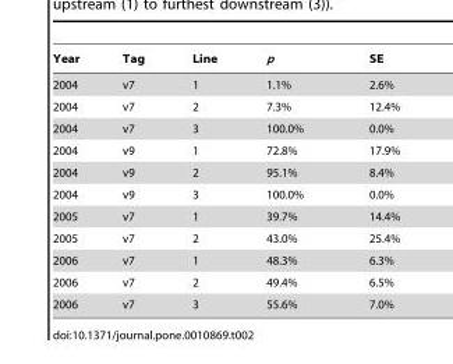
<table><thead><tr><td>Year</td><td>Tag</td><td>Line</td><td>p</td><td>SE</td></tr></thead><tbody><tr><td>2004</td><td>v7</td><td>1</td><td>1.1%</td><td>2.6%</td></tr><tr><td>2004</td><td>v7</td><td>2</td><td>7.3%</td><td>12.4%</td></tr><tr><td>2004</td><td>v7</td><td>3</td><td>100.0%</td><td>0.0%</td></tr><tr><td>2004</td><td>v9</td><td>1</td><td>72.8%</td><td>17.9%</td></tr><tr><td>2004</td><td>v9</td><td>2</td><td>95.1%</td><td>8.4%</td></tr><tr><td>2004</td><td>v9</td><td>3</td><td>100.0%</td><td>0.0%</td></tr><tr><td>2005</td><td>v7</td><td>1</td><td>39.7%</td><td>14.4%</td></tr><tr><td>2005</td><td>v7</td><td>2</td><td>43.0%</td><td>25.4%</td></tr><tr><td>2006</td><td>v7</td><td>1</td><td>48.3%</td><td>6.3%</td></tr><tr><td>2006</td><td>v7</td><td>2</td><td>49.4%</td><td>6.5%</td></tr><tr><td>2006</td><td>v7</td><td>3</td><td>55.6%</td><td>7.0%</td></tr></tbody></table>